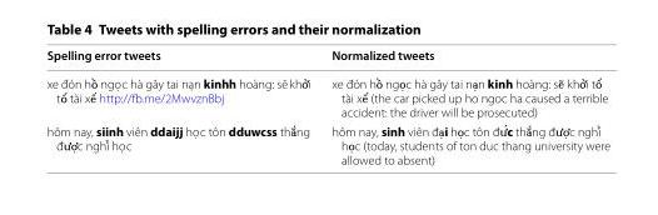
<table><thead><tr><td>Spelling error tweets</td><td>Normalized tweets</td></tr></thead><tbody><tr><td>xe đón hồ ngo. c hà gây tai nạn kinhh hoàng: se˜ khởi tố tài xế http://fb.me/2MwvznBbj</td><td>xe đón hồ ngọc hà gây tai nạn kinh hoàng: sẽ khởi tố tài xế (the car picked up ho ngoc ha caused a terrible accident: the driver will be prosecuted)</td></tr><tr><td>hôm nay, siinh viên ddaijj ho. c tôn dduwcss thắng được nghỉ ho. c</td><td>hôm nay, sinh viên đại học tôn đức thắng được nghỉ học (today, students of ton duc thang university were allowed to absent)</td></tr></tbody></table>